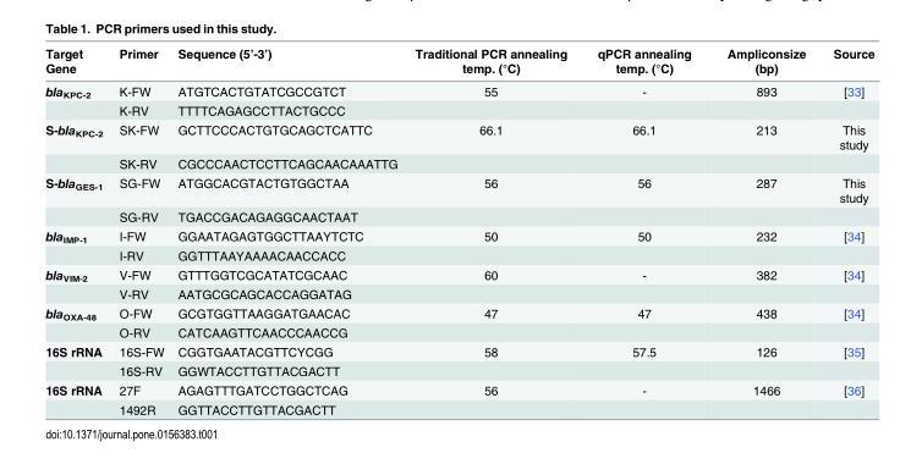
<table><thead><tr><td>Target Gene</td><td>Primer</td><td>Sequence (5’-3’)</td><td>Traditional PCR annealing temp. (°C)</td><td>qPCR annealing temp. (°C)</td><td>Ampliconsize (bp)</td><td>Source</td></tr></thead><tbody><tr><td rowspan="2">bla<sub>KPC-2</sub></td><td>K-FW</td><td>ATGTCACTGTATCGCCGTCT</td><td>55</td><td>-</td><td>893</td><td>[33]</td></tr><tr><td>K-RV</td><td>TTTTCAGAGCCTTACTGCCC</td><td></td><td></td><td></td><td></td></tr><tr><td rowspan="2">S-bla<sub>KPC-2</sub></td><td>SK-FW</td><td>GCTTCCCACTGTGCAGCTCATTC</td><td>66.1</td><td>66.1</td><td>213</td><td>This study</td></tr><tr><td>SK-RV</td><td>CGCCCAACTCCTTCAGCAACAAATTG</td><td></td><td></td><td></td><td></td></tr><tr><td rowspan="2">S-bla<sub>GES-1</sub></td><td>SG-FW</td><td>ATGGCACGTACTGTGGCTAA</td><td>56</td><td>56</td><td>287</td><td>This study</td></tr><tr><td>SG-RV</td><td>TGACCGACAGAGGCAACTAAT</td><td></td><td></td><td></td><td></td></tr><tr><td rowspan="2">bla<sub>IMP-1</sub></td><td>I-FW</td><td>GGAATAGAGTGGCTTAAYTCTC</td><td>50</td><td>50</td><td>232</td><td>[34]</td></tr><tr><td>I-RV</td><td>GGTTTAAYAAAACAACCACC</td><td></td><td></td><td></td><td></td></tr><tr><td rowspan="2">bla<sub>VIM-2</sub></td><td>V-FW</td><td>GTTTGGTCGCATATCGCAAC</td><td>60</td><td>-</td><td>382</td><td>[34]</td></tr><tr><td>V-RV</td><td>AATGCGCAGCACCAGGATAG</td><td></td><td></td><td></td><td></td></tr><tr><td rowspan="2">bla<sub>OXA-48</sub></td><td>O-FW</td><td>GCGTGGTTAAGGATGAACAC</td><td>47</td><td>47</td><td>438</td><td>[34]</td></tr><tr><td>O-RV</td><td>CATCAAGTTCAACCCAACCG</td><td></td><td></td><td></td><td></td></tr><tr><td rowspan="2">16S rRNA</td><td>16S-FW</td><td>CGGTGAATACGTTCYCGG</td><td>58</td><td>57.5</td><td>126</td><td>[35]</td></tr><tr><td>16S-RV</td><td>GGWTACCTTGTTACGACTT</td><td></td><td></td><td></td><td></td></tr><tr><td rowspan="2">16S rRNA</td><td>27F</td><td>AGAGTTTGATCCTGGCTCAG</td><td>56</td><td>-</td><td>1466</td><td>[36]</td></tr><tr><td>1492R</td><td>GGTTACCTTGTTACGACTT</td><td></td><td></td><td></td><td></td></tr></tbody></table>